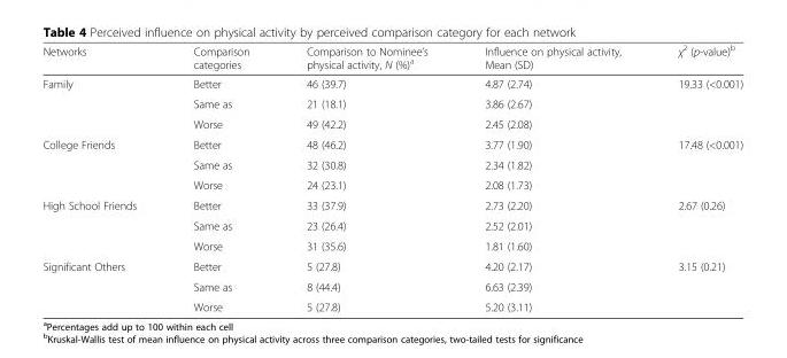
<table><thead><tr><td>Networks</td><td>Comparison categories</td><td>Comparison to Nominee’s physical activity, N (%)<sup>a</sup></td><td>Influence on physical activity, Mean (SD)</td><td>χ<sup>2</sup> (p-value)<sup>b</sup></td></tr></thead><tbody><tr><td rowspan="3">Family</td><td>Better</td><td>46 (39.7)</td><td>4.87 (2.74)</td><td rowspan="3">19.33 (&lt;0.001)</td></tr><tr><td>Same as</td><td>21 (18.1)</td><td>3.86 (2.67)</td></tr><tr><td>Worse</td><td>49 (42.2)</td><td>2.45 (2.08)</td></tr><tr><td rowspan="3">College Friends</td><td>Better</td><td>48 (46.2)</td><td>3.77 (1.90)</td><td rowspan="3">17.48 (&lt;0.001)</td></tr><tr><td>Same as</td><td>32 (30.8)</td><td>2.34 (1.82)</td></tr><tr><td>Worse</td><td>24 (23.1)</td><td>2.08 (1.73)</td></tr><tr><td rowspan="3">High School Friends</td><td>Better</td><td>33 (37.9)</td><td>2.73 (2.20)</td><td rowspan="3">2.67 (0.26)</td></tr><tr><td>Same as</td><td>23 (26.4)</td><td>2.52 (2.01)</td></tr><tr><td>Worse</td><td>31 (35.6)</td><td>1.81 (1.60)</td></tr><tr><td rowspan="3">Significant Others</td><td>Better</td><td>5 (27.8)</td><td>4.20 (2.17)</td><td rowspan="3">3.15 (0.21)</td></tr><tr><td>Same as</td><td>8 (44.4)</td><td>6.63 (2.39)</td></tr><tr><td>Worse</td><td>5 (27.8)</td><td>5.20 (3.11)</td></tr></tbody></table>